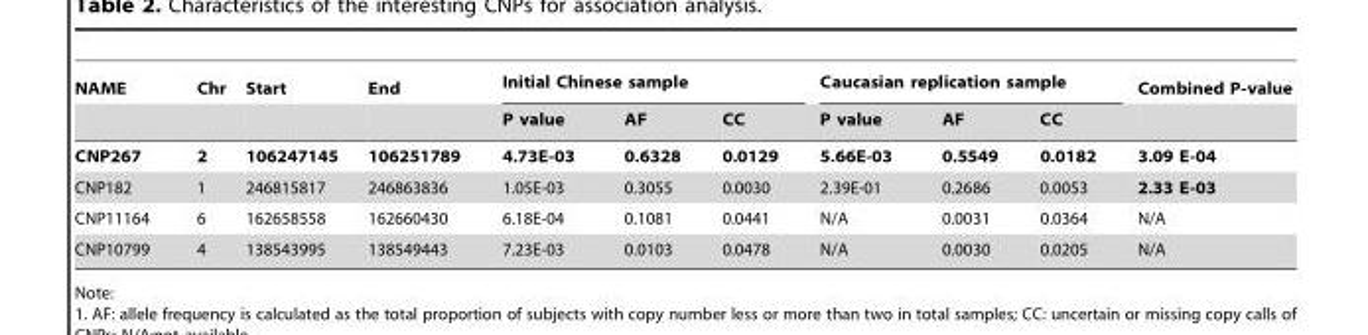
<table><thead><tr><td rowspan="2">NAME</td><td rowspan="2">Chr</td><td rowspan="2">Start</td><td rowspan="2">End</td><td colspan="3">Initial Chinese sample</td><td colspan="3">Caucasian replication sample</td><td rowspan="2">Combined P-value</td></tr><tr><td>P value</td><td>AF</td><td>CC</td><td>P value</td><td>AF</td><td>CC</td></tr></thead><tbody><tr><td>CNP267</td><td>2</td><td>106247145</td><td>106251789</td><td>4.73E-03</td><td>0.6328</td><td>0.0129</td><td>5.66E-03</td><td>0.5549</td><td>0.0182</td><td>3.09 E-04</td></tr><tr><td>CNP182</td><td>1</td><td>246815817</td><td>246863836</td><td>1.05E-03</td><td>0.3055</td><td>0.0030</td><td>2.39E-01</td><td>0.2686</td><td>0.0053</td><td>2.33 E-03</td></tr><tr><td>CNP11164</td><td>6</td><td>162658558</td><td>162660430</td><td>6.18E-04</td><td>0.1081</td><td>0.0441</td><td>N/A</td><td>0.0031</td><td>0.0364</td><td>N/A</td></tr><tr><td>CNP10799</td><td>4</td><td>138543995</td><td>138549443</td><td>7.23E-03</td><td>0.0103</td><td>0.0478</td><td>N/A</td><td>0.0030</td><td>0.0205</td><td>N/A</td></tr></tbody></table>